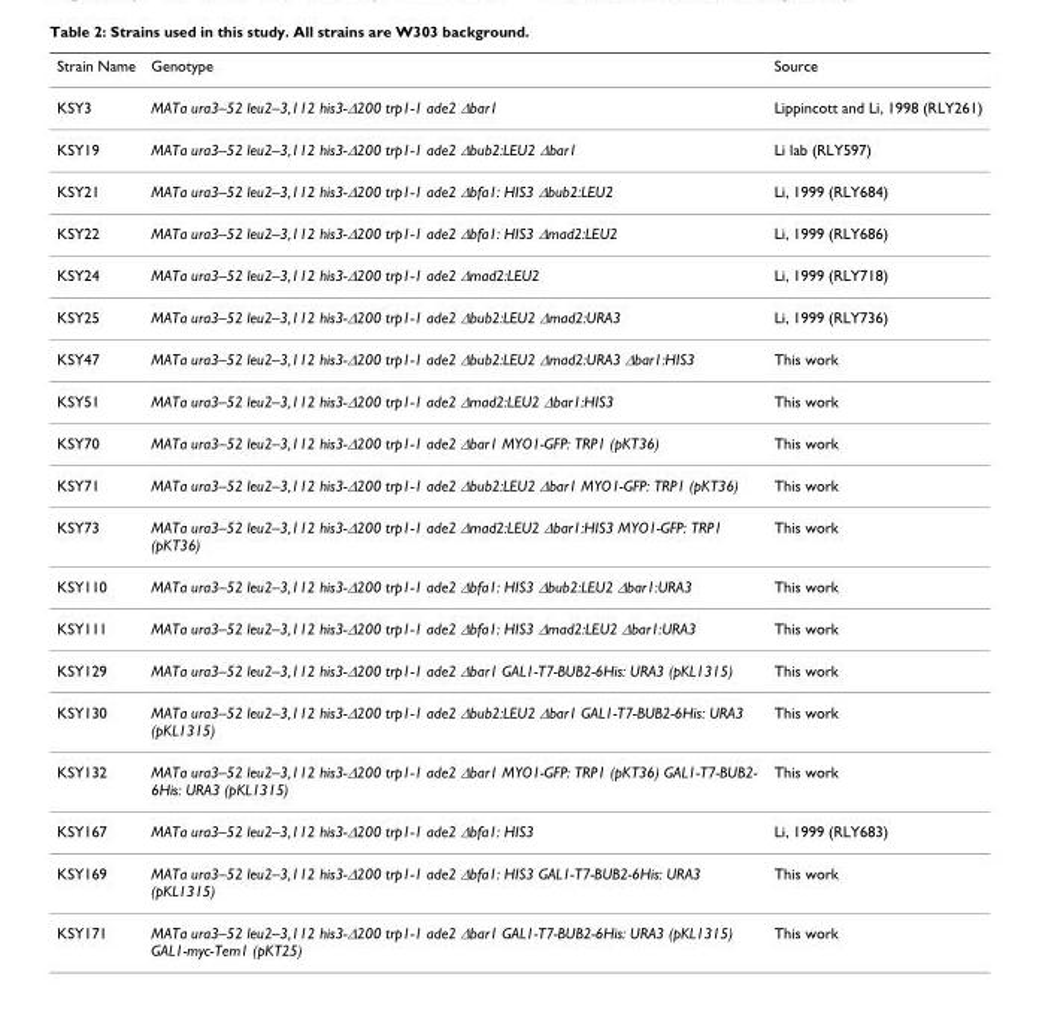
<table><thead><tr><td>Strain Name</td><td>Genotype</td><td>Source</td></tr></thead><tbody><tr><td>KSY3</td><td>MATa ura3–52 leu2–3,112 his3-Δ200 trp1-1 ade2 Δbar1</td><td>Lippincott and Li, 1998 (RLY261)</td></tr><tr><td>KSY19</td><td>MATa ura3–52 leu2–3,112 his3-Δ200 trp1-1 ade2 Δbub2:LEU2 Δbar1</td><td>Li lab (RLY597)</td></tr><tr><td>KSY21</td><td>MATa ura3–52 leu2–3,112 his3-Δ200 trp1-1 ade2 Δbfa1: HIS3 Δbub2:LEU2</td><td>Li, 1999 (RLY684)</td></tr><tr><td>KSY22</td><td>MATa ura3–52 leu2–3,112 his3-Δ200 trp1-1 ade2 Δbfa1: HIS3 Δmad2:LEU2</td><td>Li, 1999 (RLY686)</td></tr><tr><td>KSY24</td><td>MATa ura3–52 leu2–3,112 his3-Δ200 trp1-1 ade2 Δmad2:LEU2</td><td>Li, 1999 (RLY718)</td></tr><tr><td>KSY25</td><td>MATa ura3–52 leu2–3,112 his3-Δ200 trp1-1 ade2 Δbub2:LEU2 Δmad2:URA3</td><td>Li, 1999 (RLY736)</td></tr><tr><td>KSY47</td><td>MATa ura3–52 leu2–3,112 his3-Δ200 trp1-1 ade2 Δbub2:LEU2 Δmad2:URA3 Δbar1:HIS3</td><td>This work</td></tr><tr><td>KSY51</td><td>MATa ura3–52 leu2–3,112 his3-Δ200 trp1-1 ade2 Δmad2:LEU2 Δbar1:HIS3</td><td>This work</td></tr><tr><td>KSY70</td><td>MATa ura3–52 leu2–3,112 his3-Δ200 trp1-1 ade2 Δbar1 MYO1-GFP: TRP1 (pKT36)</td><td>This work</td></tr><tr><td>KSY71</td><td>MATa ura3–52 leu2–3,112 his3-Δ200 trp1-1 ade2 Δbub2:LEU2 Δbar1 MYO1-GFP: TRP1 (pKT36)</td><td>This work</td></tr><tr><td>KSY73</td><td>MATa ura3–52 leu2–3,112 his3-Δ200 trp1-1 ade2 Δmad2:LEU2 Δbar1:HIS3 MYO1-GFP: TRP1 (pKT36)</td><td>This work</td></tr><tr><td>KSY110</td><td>MATa ura3–52 leu2–3,112 his3-Δ200 trp1-1 ade2 Δbfa1: HIS3 Δbub2:LEU2 Δbar1:URA3</td><td>This work</td></tr><tr><td>KSY111</td><td>MATa ura3–52 leu2–3,112 his3-Δ200 trp1-1 ade2 Δbfa1: HIS3 Δmad2:LEU2 Δbar1:URA3</td><td>This work</td></tr><tr><td>KSY129</td><td>MATa ura3–52 leu2–3,112 his3-Δ200 trp1-1 ade2 Δbar1 GAL1-T7-BUB2-6His: URA3 (pKL1315)</td><td>This work</td></tr><tr><td>KSY130</td><td>MATa ura3–52 leu2–3,112 his3-Δ200 trp1-1 ade2 Δbub2:LEU2 Δbar1 GAL1-T7-BUB2-6His: URA3 (pKL1315)</td><td>This work</td></tr><tr><td>KSY132</td><td>MATa ura3–52 leu2–3,112 his3-Δ200 trp1-1 ade2 Δbar1 MYO1-GFP: TRP1 (pKT36) GAL1-T7-BUB2- 6His: URA3 (pKL1315)</td><td>This work</td></tr><tr><td>KSY167</td><td>MATa ura3–52 leu2–3,112 his3-Δ200 trp1-1 ade2 Δbfa1: HIS3</td><td>Li, 1999 (RLY683)</td></tr><tr><td>KSY169</td><td>MATa ura3–52 leu2–3,112 his3-Δ200 trp1-1 ade2 Δbfa1: HIS3 GAL1-T7-BUB2-6His: URA3 (pKL1315)</td><td>This work</td></tr><tr><td>KSY171</td><td>MATa ura3–52 leu2–3,112 his3-Δ200 trp1-1 ade2 Δbar1 GAL1-T7-BUB2-6His: URA3 (pKL1315) GAL1-myc-Tem1 (pKT25)</td><td>This work</td></tr></tbody></table>